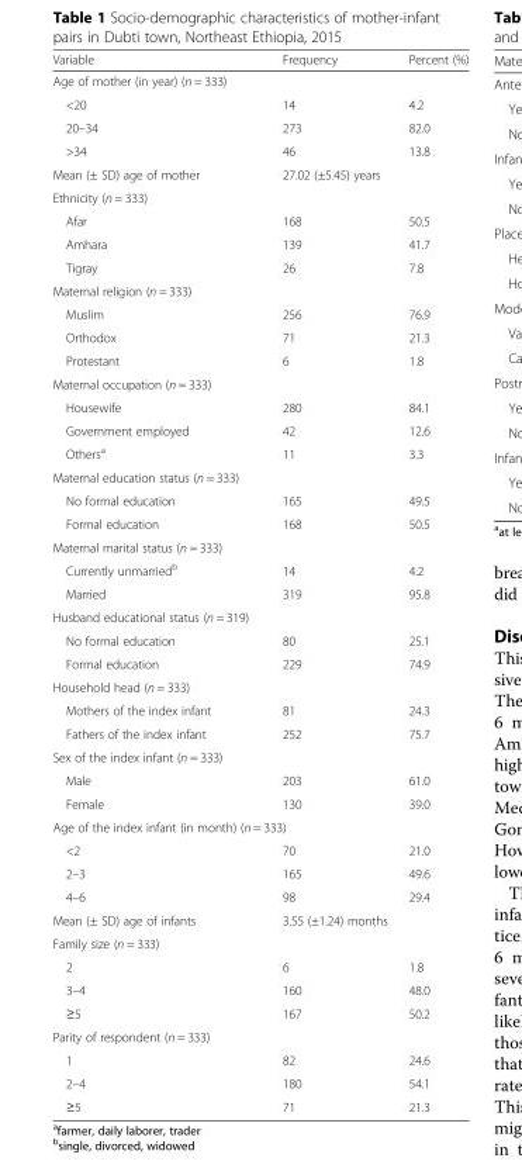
<table><thead><tr><td>Variable</td><td>Frequency</td><td>Percent (%)</td></tr></thead><tbody><tr><td colspan="3">Age of mother (in year) (n = 333)</td></tr><tr><td>&lt;20</td><td>14</td><td>4.2</td></tr><tr><td>20–34</td><td>273</td><td>82.0</td></tr><tr><td>&gt;34</td><td>46</td><td>13.8</td></tr><tr><td>Mean (± SD) age of mother</td><td colspan="2">27.02 (±5.45) years</td></tr><tr><td colspan="3">Ethnicity (n = 333)</td></tr><tr><td>Afar</td><td>168</td><td>50.5</td></tr><tr><td>Amhara</td><td>139</td><td>41.7</td></tr><tr><td>Tigray</td><td>26</td><td>7.8</td></tr><tr><td colspan="3">Maternal religion (n = 333)</td></tr><tr><td>Muslim</td><td>256</td><td>76.9</td></tr><tr><td>Orthodox</td><td>71</td><td>21.3</td></tr><tr><td>Protestant</td><td>6</td><td>1.8</td></tr><tr><td colspan="3">Maternal occupation (n = 333)</td></tr><tr><td>Housewife</td><td>280</td><td>84.1</td></tr><tr><td>Government employed</td><td>42</td><td>12.6</td></tr><tr><td>Others<sup>a</sup></td><td>11</td><td>3.3</td></tr><tr><td colspan="3">Maternal education status (n = 333)</td></tr><tr><td>No formal education</td><td>165</td><td>49.5</td></tr><tr><td>Formal education</td><td>168</td><td>50.5</td></tr><tr><td colspan="3">Maternal marital status (n = 333)</td></tr><tr><td>Currently unmarried<sup>b</sup></td><td>14</td><td>4.2</td></tr><tr><td>Married</td><td>319</td><td>95.8</td></tr><tr><td colspan="3">Husband educational status (n = 319)</td></tr><tr><td>No formal education</td><td>80</td><td>25.1</td></tr><tr><td>Formal education</td><td>229</td><td>74.9</td></tr><tr><td colspan="3">Household head (n = 333)</td></tr><tr><td>Mothers of the index infant</td><td>81</td><td>24.3</td></tr><tr><td>Fathers of the index infant</td><td>252</td><td>75.7</td></tr><tr><td colspan="3">Sex of the index infant (n = 333)</td></tr><tr><td>Male</td><td>203</td><td>61.0</td></tr><tr><td>Female</td><td>130</td><td>39.0</td></tr><tr><td colspan="3">Age of the index infant (in month) (n = 333)</td></tr><tr><td>&lt;2</td><td>70</td><td>21.0</td></tr><tr><td>2–3</td><td>165</td><td>49.6</td></tr><tr><td>4–6</td><td>98</td><td>29.4</td></tr><tr><td>Mean (± SD) age of infants</td><td colspan="2">3.55 (±1.24) months</td></tr><tr><td colspan="3">Family size (n = 333)</td></tr><tr><td>2</td><td>6</td><td>1.8</td></tr><tr><td>3–4</td><td>160</td><td>48.0</td></tr><tr><td>≥5</td><td>167</td><td>50.2</td></tr><tr><td colspan="3">Parity of respondent (n = 333)</td></tr><tr><td>1</td><td>82</td><td>24.6</td></tr><tr><td>2–4</td><td>180</td><td>54.1</td></tr><tr><td>≥5</td><td>71</td><td>21.3</td></tr></tbody></table>